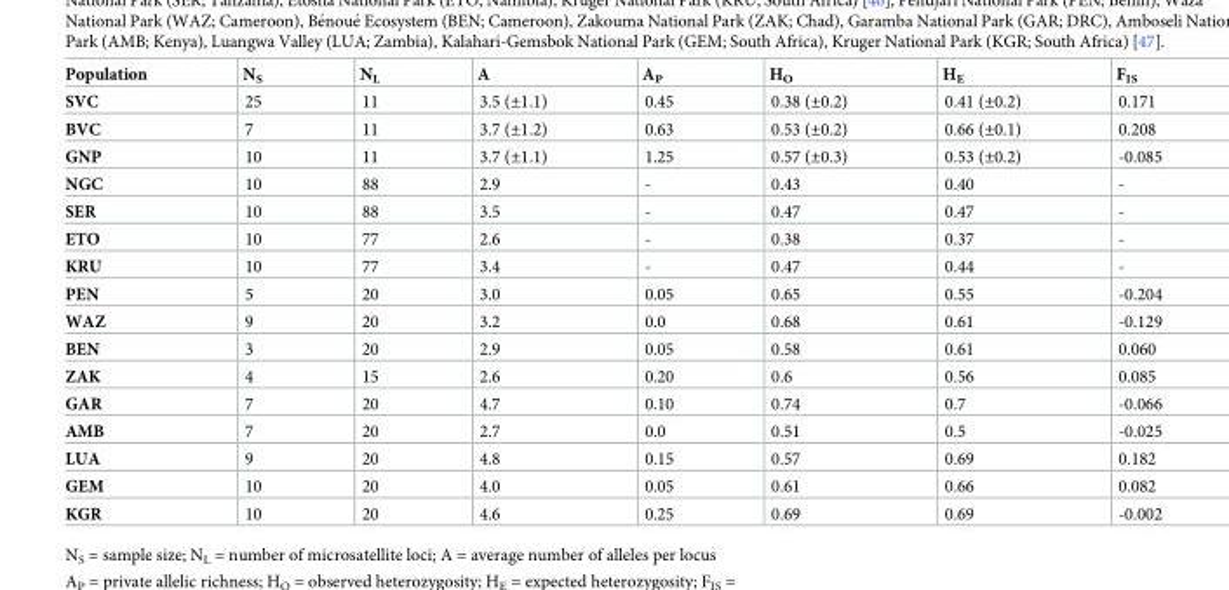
<table><thead><tr><td>Population</td><td>N<sub>S</sub></td><td>N<sub>L</sub></td><td>A</td><td>A<sub>P</sub></td><td>H<sub>O</sub></td><td>H<sub>E</sub></td><td>F<sub>IS</sub></td></tr></thead><tbody><tr><td>SVC</td><td>25</td><td>11</td><td>3.5 (±1.1)</td><td>0.45</td><td>0.38 (±0.2)</td><td>0.41 (±0.2)</td><td>0.171</td></tr><tr><td>BVC</td><td>7</td><td>11</td><td>3.7 (±1.2)</td><td>0.63</td><td>0.53 (±0.2)</td><td>0.66 (±0.1)</td><td>0.208</td></tr><tr><td>GNP</td><td>10</td><td>11</td><td>3.7 (±1.1)</td><td>1.25</td><td>0.57 (±0.3)</td><td>0.53 (±0.2)</td><td>-0.085</td></tr><tr><td>NGC</td><td>10</td><td>88</td><td>2.9</td><td>-</td><td>0.43</td><td>0.40</td><td>-</td></tr><tr><td>SER</td><td>10</td><td>88</td><td>3.5</td><td>-</td><td>0.47</td><td>0.47</td><td>-</td></tr><tr><td>ETO</td><td>10</td><td>77</td><td>2.6</td><td>-</td><td>0.38</td><td>0.37</td><td>-</td></tr><tr><td>KRU</td><td>10</td><td>77</td><td>3.4</td><td>-</td><td>0.47</td><td>0.44</td><td>-</td></tr><tr><td>PEN</td><td>5</td><td>20</td><td>3.0</td><td>0.05</td><td>0.65</td><td>0.55</td><td>-0.204</td></tr><tr><td>WAZ</td><td>9</td><td>20</td><td>3.2</td><td>0.0</td><td>0.68</td><td>0.61</td><td>-0.129</td></tr><tr><td>BEN</td><td>3</td><td>20</td><td>2.9</td><td>0.05</td><td>0.58</td><td>0.61</td><td>0.060</td></tr><tr><td>ZAK</td><td>4</td><td>15</td><td>2.6</td><td>0.20</td><td>0.6</td><td>0.56</td><td>0.085</td></tr><tr><td>GAR</td><td>7</td><td>20</td><td>4.7</td><td>0.10</td><td>0.74</td><td>0.7</td><td>-0.066</td></tr><tr><td>AMB</td><td>7</td><td>20</td><td>2.7</td><td>0.0</td><td>0.51</td><td>0.5</td><td>-0.025</td></tr><tr><td>LUA</td><td>9</td><td>20</td><td>4.8</td><td>0.15</td><td>0.57</td><td>0.69</td><td>0.182</td></tr><tr><td>GEM</td><td>10</td><td>20</td><td>4.0</td><td>0.05</td><td>0.61</td><td>0.66</td><td>0.082</td></tr><tr><td>KGR</td><td>10</td><td>20</td><td>4.6</td><td>0.25</td><td>0.69</td><td>0.69</td><td>-0.002</td></tr></tbody></table>